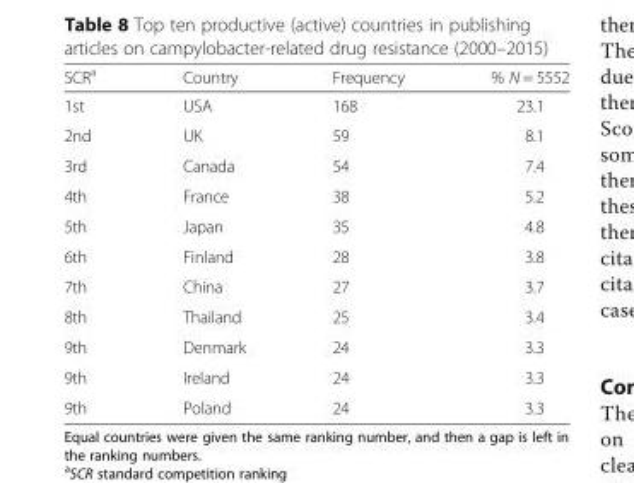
<table><thead><tr><td>SCR<sup>a</sup></td><td>Country</td><td>Frequency</td><td>% N = 5552</td></tr></thead><tbody><tr><td>1st</td><td>USA</td><td>168</td><td>23.1</td></tr><tr><td>2nd</td><td>UK</td><td>59</td><td>8.1</td></tr><tr><td>3rd</td><td>Canada</td><td>54</td><td>7.4</td></tr><tr><td>4th</td><td>France</td><td>38</td><td>5.2</td></tr><tr><td>5th</td><td>Japan</td><td>35</td><td>4.8</td></tr><tr><td>6th</td><td>Finland</td><td>28</td><td>3.8</td></tr><tr><td>7th</td><td>China</td><td>27</td><td>3.7</td></tr><tr><td>8th</td><td>Thailand</td><td>25</td><td>3.4</td></tr><tr><td>9th</td><td>Denmark</td><td>24</td><td>3.3</td></tr><tr><td>9th</td><td>Ireland</td><td>24</td><td>3.3</td></tr><tr><td>9th</td><td>Poland</td><td>24</td><td>3.3</td></tr></tbody></table>